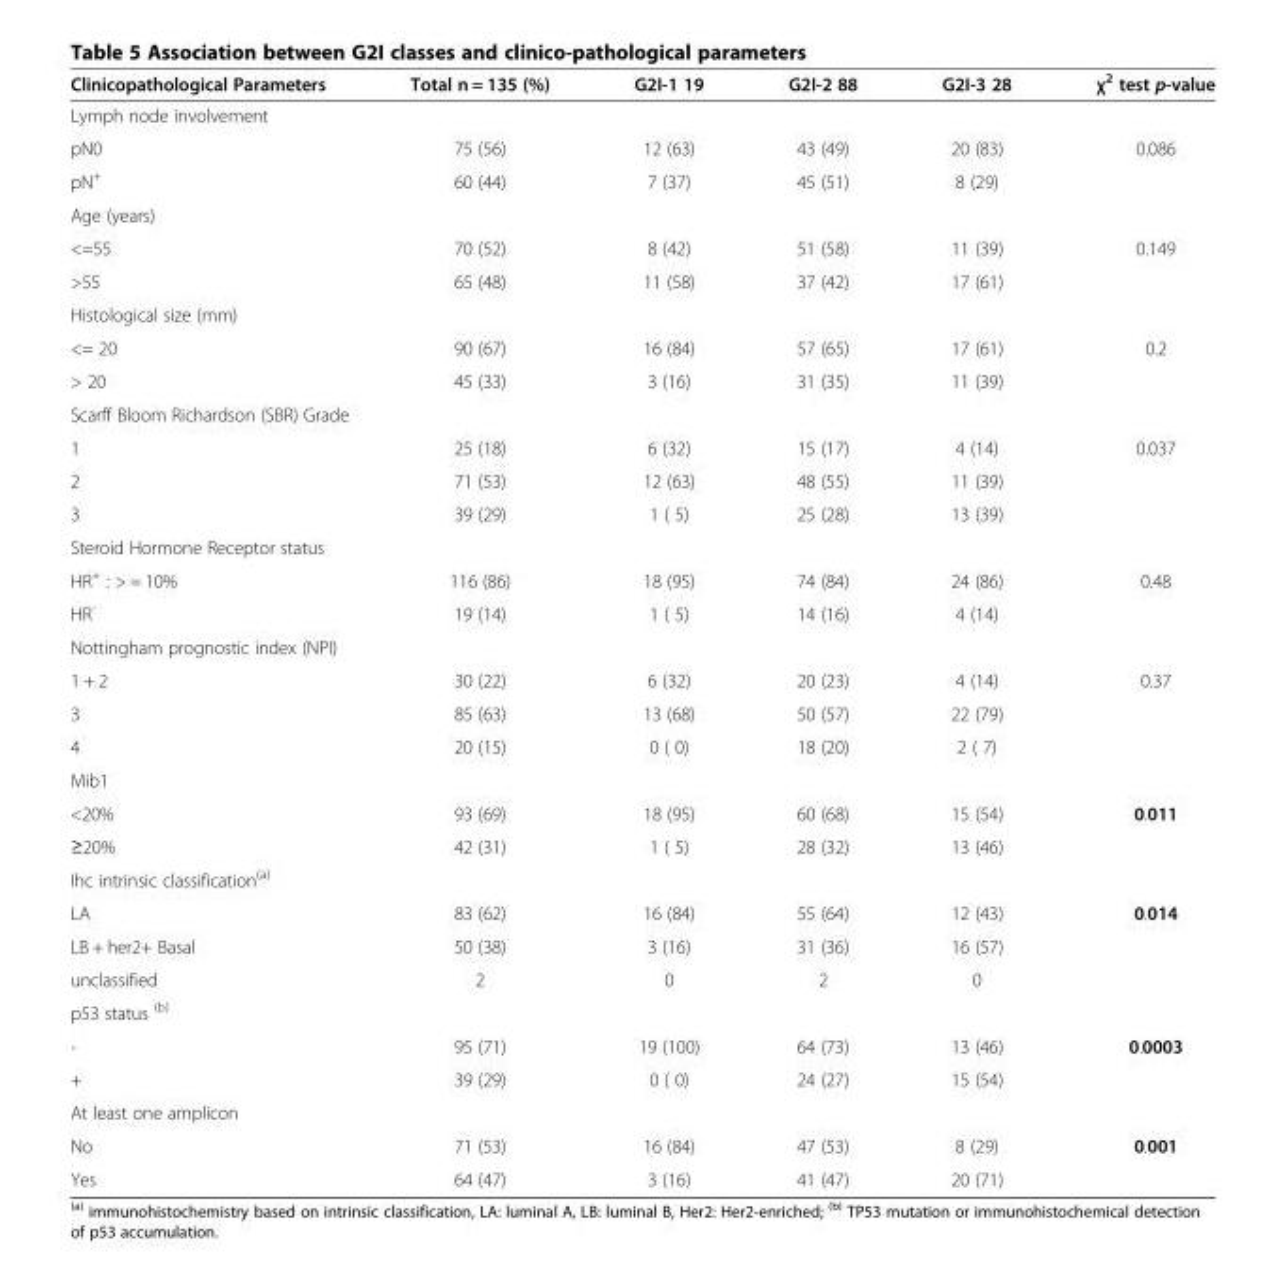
<table><thead><tr><td>Clinicopathological Parameters</td><td>Total n = 135 (%)</td><td>G2I-1 19</td><td>G2I-2 88</td><td>G2I-3 28</td><td>χ<sup>2</sup> test p-value</td></tr></thead><tbody><tr><td colspan="6">Lymph node involvement</td></tr><tr><td>pN0</td><td>75 (56)</td><td>12 (63)</td><td>43 (49)</td><td>20 (83)</td><td>0.086</td></tr><tr><td>pN<sup>+</sup></td><td>60 (44)</td><td>7 (37)</td><td>45 (51)</td><td>8 (29)</td><td></td></tr><tr><td colspan="6">Age (years)</td></tr><tr><td>&lt;=55</td><td>70 (52)</td><td>8 (42)</td><td>51 (58)</td><td>11 (39)</td><td>0.149</td></tr><tr><td>&gt;55</td><td>65 (48)</td><td>11 (58)</td><td>37 (42)</td><td>17 (61)</td><td></td></tr><tr><td colspan="6">Histological size (mm)</td></tr><tr><td>&lt;= 20</td><td>90 (67)</td><td>16 (84)</td><td>57 (65)</td><td>17 (61)</td><td>0.2</td></tr><tr><td>&gt; 20</td><td>45 (33)</td><td>3 (16)</td><td>31 (35)</td><td>11 (39)</td><td></td></tr><tr><td colspan="6">Scarff Bloom Richardson (SBR) Grade</td></tr><tr><td>1</td><td>25 (18)</td><td>6 (32)</td><td>15 (17)</td><td>4 (14)</td><td>0.037</td></tr><tr><td>2</td><td>71 (53)</td><td>12 (63)</td><td>48 (55)</td><td>11 (39)</td><td></td></tr><tr><td>3</td><td>39 (29)</td><td>1 ( 5)</td><td>25 (28)</td><td>13 (39)</td><td></td></tr><tr><td colspan="6">Steroid Hormone Receptor status</td></tr><tr><td>HR<sup>+</sup> : &gt; = 10%</td><td>116 (86)</td><td>18 (95)</td><td>74 (84)</td><td>24 (86)</td><td>0.48</td></tr><tr><td>HR<sup>-</sup></td><td>19 (14)</td><td>1 ( 5)</td><td>14 (16)</td><td>4 (14)</td><td></td></tr><tr><td colspan="6">Nottingham prognostic index (NPI)</td></tr><tr><td>1 + 2</td><td>30 (22)</td><td>6 (32)</td><td>20 (23)</td><td>4 (14)</td><td>0.37</td></tr><tr><td>3</td><td>85 (63)</td><td>13 (68)</td><td>50 (57)</td><td>22 (79)</td><td></td></tr><tr><td>4</td><td>20 (15)</td><td>0 ( 0)</td><td>18 (20)</td><td>2 ( 7)</td><td></td></tr><tr><td colspan="6">Mib1</td></tr><tr><td>&lt;20%</td><td>93 (69)</td><td>18 (95)</td><td>60 (68)</td><td>15 (54)</td><td>0.011</td></tr><tr><td>≥20%</td><td>42 (31)</td><td>1 ( 5)</td><td>28 (32)</td><td>13 (46)</td><td></td></tr><tr><td colspan="6">Ihc intrinsic classification<sup>(a)</sup></td></tr><tr><td>LA</td><td>83 (62)</td><td>16 (84)</td><td>55 (64)</td><td>12 (43)</td><td>0.014</td></tr><tr><td>LB + her2+ Basal</td><td>50 (38)</td><td>3 (16)</td><td>31 (36)</td><td>16 (57)</td><td></td></tr><tr><td>unclassified</td><td>2</td><td>0</td><td>2</td><td>0</td><td></td></tr><tr><td colspan="6">p53 status <sup>(b)</sup></td></tr><tr><td>-</td><td>95 (71)</td><td>19 (100)</td><td>64 (73)</td><td>13 (46)</td><td>0.0003</td></tr><tr><td>+</td><td>39 (29)</td><td>0 ( 0)</td><td>24 (27)</td><td>15 (54)</td><td></td></tr><tr><td colspan="6">At least one amplicon</td></tr><tr><td>No</td><td>71 (53)</td><td>16 (84)</td><td>47 (53)</td><td>8 (29)</td><td>0.001</td></tr><tr><td>Yes</td><td>64 (47)</td><td>3 (16)</td><td>41 (47)</td><td>20 (71)</td><td></td></tr></tbody></table>